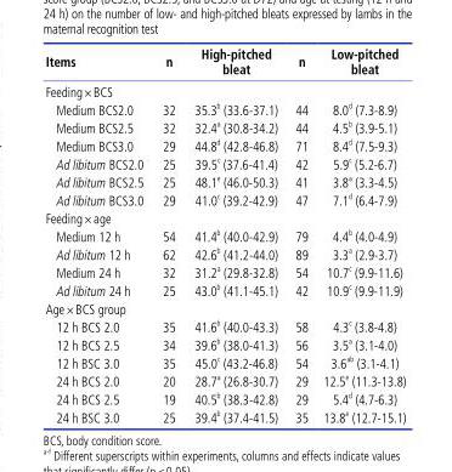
<table><thead><tr><td>Items</td><td>n</td><td>High-pitched bleat</td><td>n</td><td>Low-pitched bleat</td></tr></thead><tbody><tr><td colspan="5">Feeding×BCS</td></tr><tr><td>Medium BCS2.0</td><td>32</td><td>35.3 <sup>b</sup> (33.6-37.1)</td><td>44</td><td>8.0 <sup>d</sup> (7.3-8.9)</td></tr><tr><td>Medium BCS2.5</td><td>32</td><td>32.4 <sup>a</sup> (30.8-34.2)</td><td>44</td><td>4.5 <sup>b</sup> (3.9-5.1)</td></tr><tr><td>Medium BCS3.0</td><td>29</td><td>44.8 <sup>d</sup> (42.8-46.8)</td><td>71</td><td>8.4 <sup>d</sup> (7.5-9.3)</td></tr><tr><td>Ad libitum BCS2.0</td><td>25</td><td>39.5 <sup>c</sup> (37.6-41.4)</td><td>42</td><td>5.9 <sup>c</sup> (5.2-6.7)</td></tr><tr><td>Ad libitum BCS2.5</td><td>25</td><td>48.1 <sup>e</sup> (46.0-50.3)</td><td>41</td><td>3.8 <sup>a</sup> (3.3-4.5)</td></tr><tr><td>Ad libitum BCS3.0</td><td>29</td><td>41.0 <sup>c</sup> (39.2-42.9)</td><td>47</td><td>7.1 <sup>d</sup> (6.4-7.9)</td></tr><tr><td colspan="5">Feeding×age</td></tr><tr><td>Medium 12 h</td><td>54</td><td>41.4 <sup>b</sup> (40.0-42.9)</td><td>79</td><td>4.4 <sup>b</sup> (4.0-4.9)</td></tr><tr><td>Ad libitum 12 h</td><td>62</td><td>42.6 <sup>b</sup> (41.2-44.0)</td><td>89</td><td>3.3 <sup>a</sup> (2.9-3.7)</td></tr><tr><td>Medium 24 h</td><td>32</td><td>31.2 <sup>a</sup> (29.8-32.8)</td><td>54</td><td>10.7 <sup>c</sup> (9.9-11.6)</td></tr><tr><td>Ad libitum 24 h</td><td>25</td><td>43.0 <sup>b</sup> (41.1-45.1)</td><td>42</td><td>10.9 <sup>c</sup> (9.9-11.9)</td></tr><tr><td colspan="5">Age×BCS group</td></tr><tr><td>12 h BCS 2.0</td><td>35</td><td>41.6 <sup>b</sup> (40.0-43.3)</td><td>58</td><td>4.3 <sup>c</sup> (3.8-4.8)</td></tr><tr><td>12 h BCS 2.5</td><td>34</td><td>39.6 <sup>b</sup> (38.0-41.3)</td><td>56</td><td>3.5 <sup>a</sup> (3.1-4.0)</td></tr><tr><td>12 h BSC 3.0</td><td>35</td><td>45.0 <sup>c</sup> (43.2-46.8)</td><td>54</td><td>3.6 <sup>ab</sup> (3.1-4.1)</td></tr><tr><td>24 h BCS 2.0</td><td>20</td><td>28.7 <sup>a</sup> (26.8-30.7)</td><td>29</td><td>12.5 <sup>e</sup> (11.3-13.8)</td></tr><tr><td>24 h BCS 2.5</td><td>19</td><td>40.5 <sup>b</sup> (38.3-42.8)</td><td>29</td><td>5.4 <sup>d</sup> (4.7-6.3)</td></tr><tr><td>24 h BSC 3.0</td><td>25</td><td>39.4 <sup>b</sup> (37.4-41.5)</td><td>35</td><td>13.8 <sup>e</sup> (12.7-15.1)</td></tr></tbody></table>